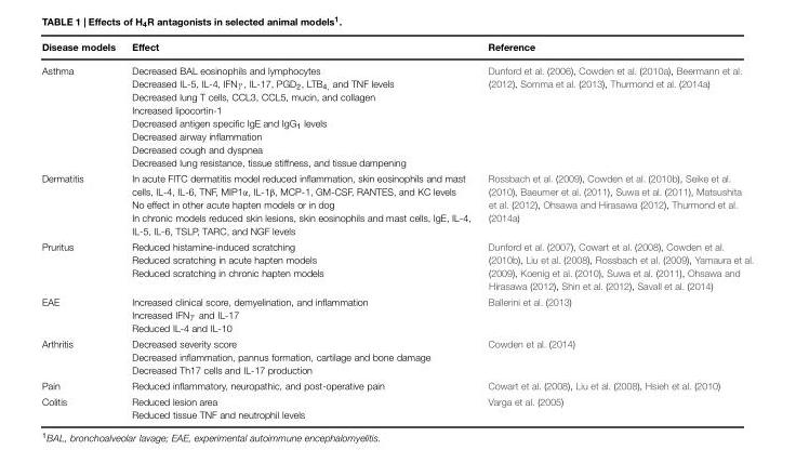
<table><thead><tr><td>Disease models</td><td>Effect</td><td>Reference</td></tr></thead><tbody><tr><td>Asthma</td><td>Decreased BAL eosinophils and lymphocytes Decreased IL-5, IL-4, IFNγ, IL-17, PGD<sub>2</sub>, LTB<sub>4,</sub> and TNF levels Decreased lung T cells, CCL3, CCL5, mucin, and collagen Increased lipocortin-1 Decreased antigen specific IgE and IgG<sub>1</sub> levels Decreased airway inflammation Decreased cough and dyspnea Decreased lung resistance, tissue stiffness, and tissue dampening</td><td>Dunford et al. (2006), Cowden et al. (2010a), Beermann et al. (2012), Somma et al. (2013), Thurmond et al. (2014a)</td></tr><tr><td>Dermatitis</td><td>In acute FITC dermatitis model reduced inflammation, skin eosinophils and mast cells, IL-4, IL-6, TNF, MIP1α, IL-1β, MCP-1, GM-CSF, RANTES, and KC levels No effect in other acute hapten models or in dog In chronic models reduced skin lesions, skin eosinophils and mast cells, IgE, IL-4, IL-5, IL-6, TSLP, TARC, and NGF levels</td><td>Rossbach et al. (2009), Cowden et al. (2010b), Seike et al. (2010), Baeumer et al. (2011), Suwa et al. (2011), Matsushita et al. (2012), Ohsawa and Hirasawa (2012), Thurmond et al. (2014a)</td></tr><tr><td>Pruritus</td><td>Reduced histamine-induced scratching Reduced scratching in acute hapten models Reduced scratching in chronic hapten models</td><td>Dunford et al. (2007), Cowart et al. (2008), Cowden et al. (2010b), Liu et al. (2008), Rossbach et al. (2009), Yamaura et al. (2009), Koenig et al. (2010), Suwa et al. (2011), Ohsawa and Hirasawa (2012), Shin et al. (2012), Savall et al. (2014)</td></tr><tr><td>EAE</td><td>Increased clinical score, demyelination, and inflammation Increased IFNγ and IL-17 Reduced IL-4 and IL-10</td><td>Ballerini et al. (2013)</td></tr><tr><td>Arthritis</td><td>Decreased severity score Decreased inflammation, pannus formation, cartilage and bone damage Decreased Th17 cells and IL-17 production</td><td>Cowden et al. (2014)</td></tr><tr><td>Pain</td><td>Reduced inflammatory, neuropathic, and post-operative pain</td><td>Cowart et al. (2008), Liu et al. (2008), Hsieh et al. (2010)</td></tr><tr><td>Colitis</td><td>Reduced lesion area Reduced tissue TNF and neutrophil levels</td><td>Varga et al. (2005)</td></tr></tbody></table>